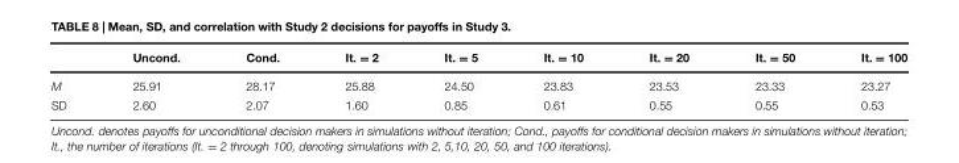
<table><thead><tr><td></td><td>Uncond.</td><td>Cond.</td><td>It. = 2</td><td>It. = 5</td><td>It. = 10</td><td>It. = 20</td><td>It. = 50</td><td>It. = 100</td></tr></thead><tbody><tr><td>M</td><td>25.91</td><td>28.17</td><td>25.88</td><td>24.50</td><td>23.83</td><td>23.53</td><td>23.33</td><td>23.27</td></tr><tr><td>SD</td><td>2.60</td><td>2.07</td><td>1.60</td><td>0.85</td><td>0.61</td><td>0.55</td><td>0.55</td><td>0.53</td></tr></tbody></table>